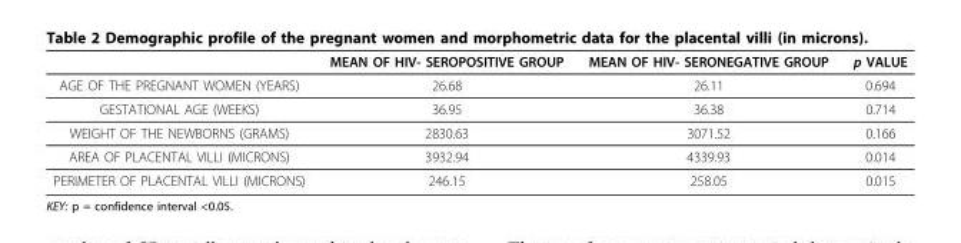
<table><thead><tr><td></td><td>MEAN OF HIV- SEROPOSITIVE GROUP</td><td>MEAN OF HIV- SERONEGATIVE GROUP</td><td>p VALUE</td></tr></thead><tbody><tr><td>AGE OF THE PREGNANT WOMEN (YEARS)</td><td>26.68</td><td>26.11</td><td>0.694</td></tr><tr><td>GESTATIONAL AGE (WEEKS)</td><td>36.95</td><td>36.38</td><td>0.714</td></tr><tr><td>WEIGHT OF THE NEWBORNS (GRAMS)</td><td>2830.63</td><td>3071.52</td><td>0.166</td></tr><tr><td>AREA OF PLACENTAL VILLI (MICRONS)</td><td>3932.94</td><td>4339.93</td><td>0.014</td></tr><tr><td>PERIMETER OF PLACENTAL VILLI (MICRONS)</td><td>246.15</td><td>258.05</td><td>0.015</td></tr></tbody></table>